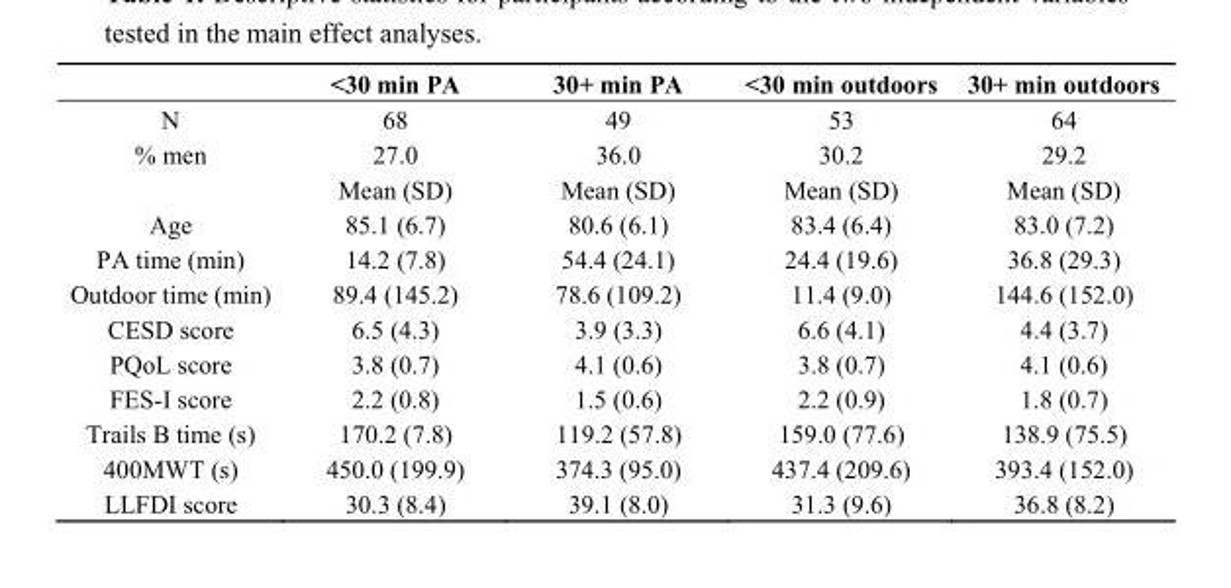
<table><thead><tr><td></td><td>&lt;30 min PA</td><td>30+ min PA</td><td>&lt;30 min outdoors</td><td>30+ min outdoors</td></tr></thead><tbody><tr><td>N</td><td>68</td><td>49</td><td>53</td><td>64</td></tr><tr><td rowspan="2">% men</td><td>27.0</td><td>36.0</td><td>30.2</td><td>29.2</td></tr><tr><td>Mean (SD)</td><td>Mean (SD)</td><td>Mean (SD)</td><td>Mean (SD)</td></tr><tr><td>Age</td><td>85.1 (6.7)</td><td>80.6 (6.1)</td><td>83.4 (6.4)</td><td>83.0 (7.2)</td></tr><tr><td>PA time (min)</td><td>14.2 (7.8)</td><td>54.4 (24.1)</td><td>24.4 (19.6)</td><td>36.8 (29.3)</td></tr><tr><td>Outdoor time (min)</td><td>89.4 (145.2)</td><td>78.6 (109.2)</td><td>11.4 (9.0)</td><td>144.6 (152.0)</td></tr><tr><td>CESD score</td><td>6.5 (4.3)</td><td>3.9 (3.3)</td><td>6.6 (4.1)</td><td>4.4 (3.7)</td></tr><tr><td>PQoL score</td><td>3.8 (0.7)</td><td>4.1 (0.6)</td><td>3.8 (0.7)</td><td>4.1 (0.6)</td></tr><tr><td>FES-I score</td><td>2.2 (0.8)</td><td>1.5 (0.6)</td><td>2.2 (0.9)</td><td>1.8 (0.7)</td></tr><tr><td>Trails B time (s)</td><td>170.2 (7.8)</td><td>119.2 (57.8)</td><td>159.0 (77.6)</td><td>138.9 (75.5)</td></tr><tr><td>400MWT (s)</td><td>450.0 (199.9)</td><td>374.3 (95.0)</td><td>437.4 (209.6)</td><td>393.4 (152.0)</td></tr><tr><td>LLFDI score</td><td>30.3 (8.4)</td><td>39.1 (8.0)</td><td>31.3 (9.6)</td><td>36.8 (8.2)</td></tr></tbody></table>